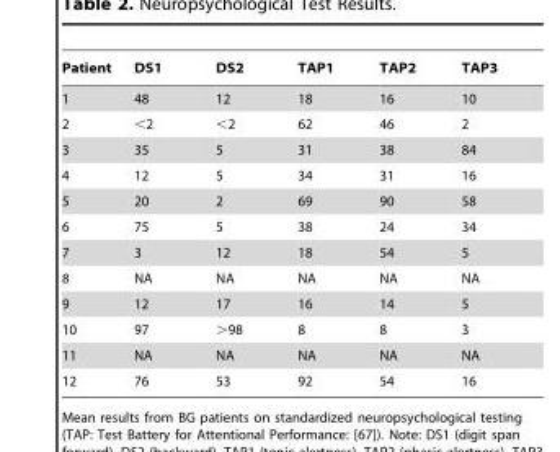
<table><thead><tr><td>Patient</td><td>DS1</td><td>DS2</td><td>TAP1</td><td>TAP2</td><td>TAP3</td></tr></thead><tbody><tr><td>1</td><td>48</td><td>12</td><td>18</td><td>16</td><td>10</td></tr><tr><td>2</td><td>&lt;2</td><td>&lt;2</td><td>62</td><td>46</td><td>2</td></tr><tr><td>3</td><td>35</td><td>5</td><td>31</td><td>38</td><td>84</td></tr><tr><td>4</td><td>12</td><td>5</td><td>34</td><td>31</td><td>16</td></tr><tr><td>5</td><td>20</td><td>2</td><td>69</td><td>90</td><td>58</td></tr><tr><td>6</td><td>75</td><td>5</td><td>38</td><td>24</td><td>34</td></tr><tr><td>7</td><td>3</td><td>12</td><td>18</td><td>54</td><td>5</td></tr><tr><td>8</td><td>NA</td><td>NA</td><td>NA</td><td>NA</td><td>NA</td></tr><tr><td>9</td><td>12</td><td>17</td><td>16</td><td>14</td><td>5</td></tr><tr><td>10</td><td>97</td><td>&gt;98</td><td>8</td><td>8</td><td>3</td></tr><tr><td>11</td><td>NA</td><td>NA</td><td>NA</td><td>NA</td><td>NA</td></tr><tr><td>12</td><td>76</td><td>53</td><td>92</td><td>54</td><td>16</td></tr></tbody></table>